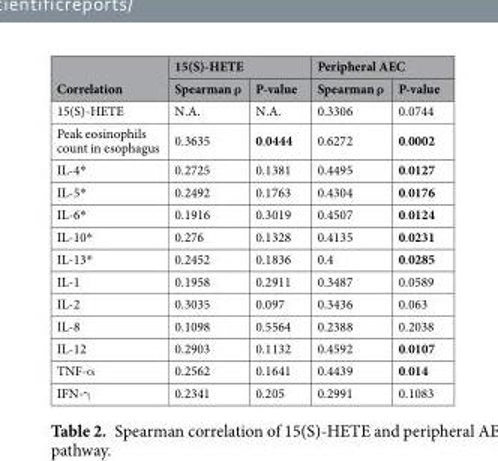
<table><thead><tr><td rowspan="2">Correlation</td><td colspan="2">15(S)-HETE</td><td colspan="2">Peripheral AEC</td></tr><tr><td>Spearman ρ</td><td>P-value</td><td>Spearman ρ</td><td>P-value</td></tr></thead><tbody><tr><td>15(S)-HETE</td><td>N.A.</td><td>N.A.</td><td>0.3306</td><td>0.0744</td></tr><tr><td>Peak eosinophils count in esophagus</td><td>0.3635</td><td>0.0444</td><td>0.6272</td><td>0.0002</td></tr><tr><td>IL-4*</td><td>0.2725</td><td>0.1381</td><td>0.4495</td><td>0.0127</td></tr><tr><td>IL-5*</td><td>0.2492</td><td>0.1763</td><td>0.4304</td><td>0.0176</td></tr><tr><td>IL-6*</td><td>0.1916</td><td>0.3019</td><td>0.4507</td><td>0.0124</td></tr><tr><td>IL-10*</td><td>0.276</td><td>0.1328</td><td>0.4135</td><td>0.0231</td></tr><tr><td>IL-13*</td><td>0.2452</td><td>0.1836</td><td>0.4</td><td>0.0285</td></tr><tr><td>IL-1</td><td>0.1958</td><td>0.2911</td><td>0.3487</td><td>0.0589</td></tr><tr><td>IL-2</td><td>0.3035</td><td>0.097</td><td>0.3436</td><td>0.063</td></tr><tr><td>IL-8</td><td>0.1098</td><td>0.5564</td><td>0.2388</td><td>0.2038</td></tr><tr><td>IL-12</td><td>0.2903</td><td>0.1132</td><td>0.4592</td><td>0.0107</td></tr><tr><td>TNF-α</td><td>0.2562</td><td>0.1641</td><td>0.4439</td><td>0.014</td></tr><tr><td>IFN-γ</td><td>0.2341</td><td>0.205</td><td>0.2991</td><td>0.1083</td></tr></tbody></table>